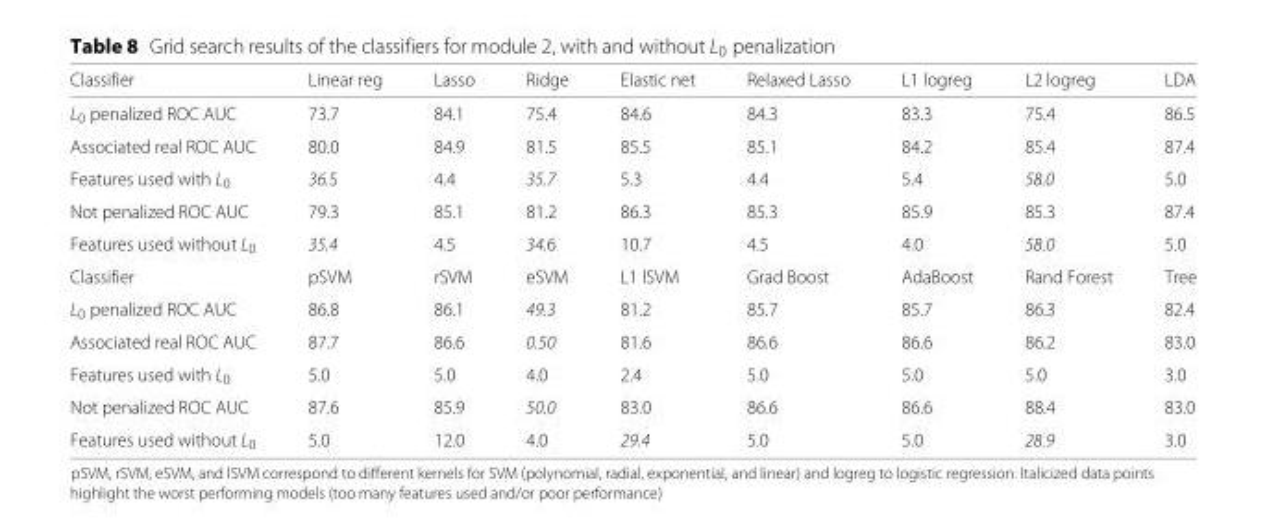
<table><thead><tr><td>Classifier</td><td>Linear reg</td><td>Lasso</td><td>Ridge</td><td>Elastic net</td><td>Relaxed Lasso</td><td>L1 logreg</td><td>L2 logreg</td><td>LDA</td></tr></thead><tbody><tr><td>L<sub>0</sub> penalized ROC AUC</td><td>73.7</td><td>84.1</td><td>75.4</td><td>84.6</td><td>84.3</td><td>83.3</td><td>75.4</td><td>86.5</td></tr><tr><td>Associated real ROC AUC</td><td>80.0</td><td>84.9</td><td>81.5</td><td>85.5</td><td>85.1</td><td>84.2</td><td>85.4</td><td>87.4</td></tr><tr><td>Features used with L<sub>0</sub></td><td>36.5</td><td>4.4</td><td>35.7</td><td>5.3</td><td>4.4</td><td>5.4</td><td>58.0</td><td>5.0</td></tr><tr><td>Not penalized ROC AUC</td><td>79.3</td><td>85.1</td><td>81.2</td><td>86.3</td><td>85.3</td><td>85.9</td><td>85.3</td><td>87.4</td></tr><tr><td>Features used without L<sub>0</sub></td><td>35.4</td><td>4.5</td><td>34.6</td><td>10.7</td><td>4.5</td><td>4.0</td><td>58.0</td><td>5.0</td></tr><tr><td>Classifier</td><td>pSVM</td><td>rSVM</td><td>eSVM</td><td>L1 lSVM</td><td>Grad Boost</td><td>AdaBoost</td><td>Rand Forest</td><td>Tree</td></tr><tr><td>L<sub>0</sub> penalized ROC AUC</td><td>86.8</td><td>86.1</td><td>49.3</td><td>81.2</td><td>85.7</td><td>85.7</td><td>86.3</td><td>82.4</td></tr><tr><td>Associated real ROC AUC</td><td>87.7</td><td>86.6</td><td>0.50</td><td>81.6</td><td>86.6</td><td>86.6</td><td>86.2</td><td>83.0</td></tr><tr><td>Features used with L<sub>0</sub></td><td>5.0</td><td>5.0</td><td>4.0</td><td>2.4</td><td>5.0</td><td>5.0</td><td>5.0</td><td>3.0</td></tr><tr><td>Not penalized ROC AUC</td><td>87.6</td><td>85.9</td><td>50.0</td><td>83.0</td><td>86.6</td><td>86.6</td><td>88.4</td><td>83.0</td></tr><tr><td>Features used without L<sub>0</sub></td><td>5.0</td><td>12.0</td><td>4.0</td><td>29.4</td><td>5.0</td><td>5.0</td><td>28.9</td><td>3.0</td></tr></tbody></table>